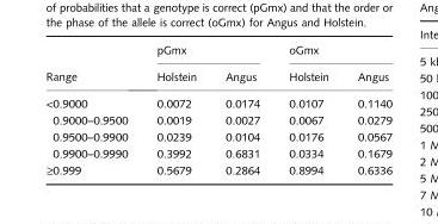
<table><thead><tr><td rowspan="2">Range</td><td colspan="2">pGmx</td><td colspan="2">oGmx</td></tr><tr><td>Holstein</td><td>Angus</td><td>Holstein</td><td>Angus</td></tr></thead><tbody><tr><td>&lt;0.9000</td><td>0.0072</td><td>0.0174</td><td>0.0107</td><td>0.1140</td></tr><tr><td>0.9000–0.9500</td><td>0.0019</td><td>0.0027</td><td>0.0067</td><td>0.0279</td></tr><tr><td>0.9500–0.9900</td><td>0.0239</td><td>0.0104</td><td>0.0176</td><td>0.0567</td></tr><tr><td>0.9900–0.9990</td><td>0.3992</td><td>0.6831</td><td>0.0334</td><td>0.1679</td></tr><tr><td>‡0.999</td><td>0.5679</td><td>0.2864</td><td>0.8994</td><td>0.6336</td></tr></tbody></table>